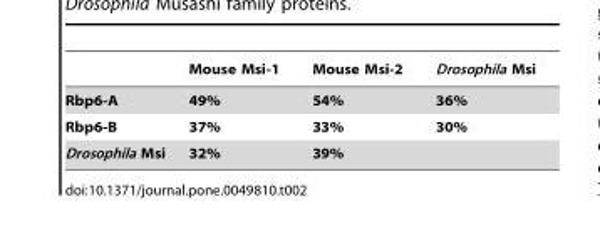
<table><thead><tr><td></td><td>Mouse Msi-1</td><td>Mouse Msi-2</td><td>Drosophila Msi</td></tr></thead><tbody><tr><td>Rbp6-A</td><td>49%</td><td>54%</td><td>36%</td></tr><tr><td>Rbp6-B</td><td>37%</td><td>33%</td><td>30%</td></tr><tr><td>Drosophila Msi</td><td>32%</td><td>39%</td><td></td></tr></tbody></table>